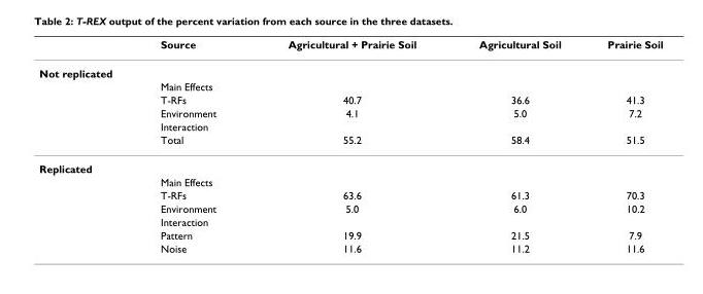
<table><thead><tr><td></td><td>Source</td><td>Agricultural + Prairie Soil</td><td>Agricultural Soil</td><td>Prairie Soil</td></tr></thead><tbody><tr><td colspan="5">Not replicated</td></tr><tr><td></td><td>Main Effects</td><td></td><td></td><td></td></tr><tr><td></td><td>T-RFs</td><td>40.7</td><td>36.6</td><td>41.3</td></tr><tr><td></td><td>Environment</td><td>4.1</td><td>5.0</td><td>7.2</td></tr><tr><td></td><td>Interaction</td><td></td><td></td><td></td></tr><tr><td></td><td>Total</td><td>55.2</td><td>58.4</td><td>51.5</td></tr><tr><td colspan="5">Replicated</td></tr><tr><td></td><td>Main Effects</td><td></td><td></td><td></td></tr><tr><td></td><td>T-RFs</td><td>63.6</td><td>61.3</td><td>70.3</td></tr><tr><td></td><td>Environment</td><td>5.0</td><td>6.0</td><td>10.2</td></tr><tr><td></td><td>Interaction</td><td></td><td></td><td></td></tr><tr><td></td><td>Pattern</td><td>19.9</td><td>21.5</td><td>7.9</td></tr><tr><td></td><td>Noise</td><td>11.6</td><td>11.2</td><td>11.6</td></tr></tbody></table>